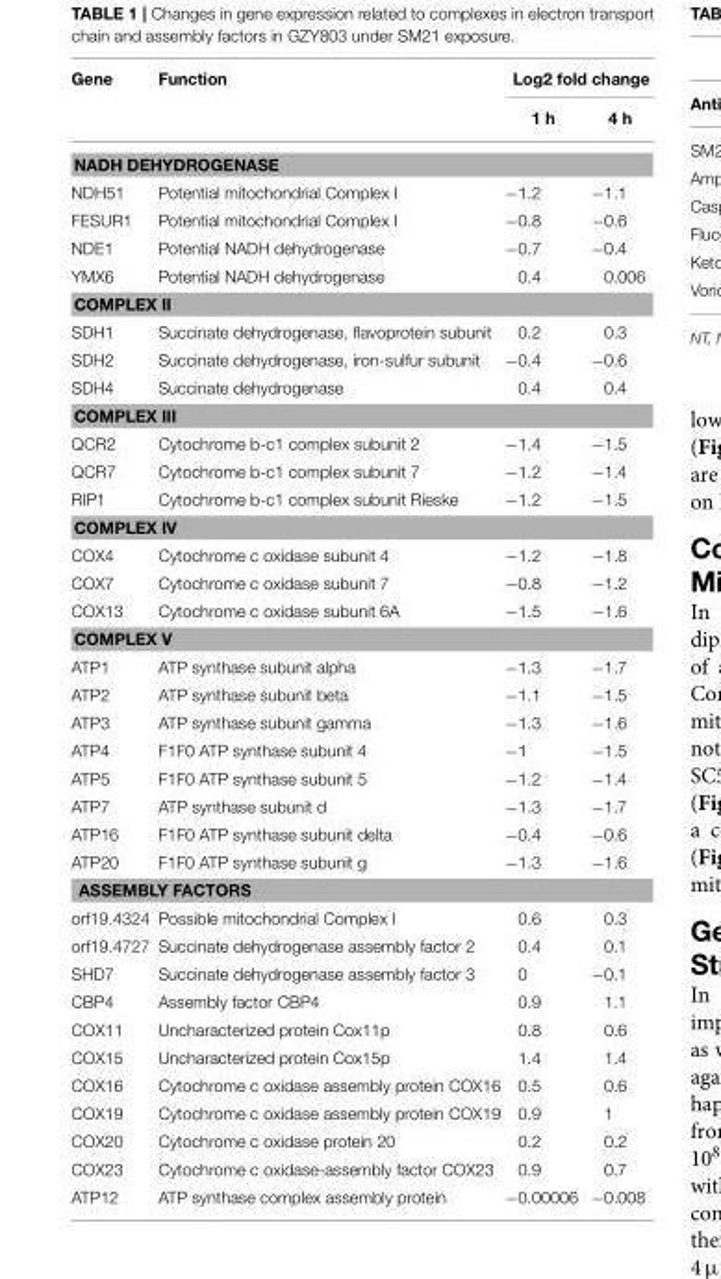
<table><thead><tr><td rowspan="2">Gene</td><td rowspan="2">Function</td><td colspan="2">Log2 fold change</td></tr><tr><td>1 h</td><td>4 h</td></tr></thead><tbody><tr><td colspan="4">NADH DEHYDROGENASE</td></tr><tr><td>NDH51</td><td>Potential mitochondrial Complex I</td><td>−1.2</td><td>−1.1</td></tr><tr><td>FESUR1</td><td>Potential mitochondrial Complex I</td><td>−0.8</td><td>−0.6</td></tr><tr><td>NDE1</td><td>Potential NADH dehydrogenase</td><td>−0.7</td><td>−0.4</td></tr><tr><td>YMX6</td><td>Potential NADH dehydrogenase</td><td>0.4</td><td>0.006</td></tr><tr><td colspan="4">COMPLEX II</td></tr><tr><td>SDH1</td><td>Succinate dehydrogenase, flavoprotein subunit</td><td>0.2</td><td>0.3</td></tr><tr><td>SDH2</td><td>Succinate dehydrogenase, iron-sulfur subunit</td><td>−0.4</td><td>−0.6</td></tr><tr><td>SDH4</td><td>Succinate dehydrogenase</td><td>0.4</td><td>0.4</td></tr><tr><td colspan="4">COMPLEX III</td></tr><tr><td>QCR2</td><td>Cytochrome b-c1 complex subunit 2</td><td>−1.4</td><td>−1.5</td></tr><tr><td>QCR7</td><td>Cytochrome b-c1 complex subunit 7</td><td>−1.2</td><td>−1.4</td></tr><tr><td>RIP1</td><td>Cytochrome b-c1 complex subunit Rieske</td><td>−1.2</td><td>−1.5</td></tr><tr><td colspan="4">COMPLEX IV</td></tr><tr><td>COX4</td><td>Cytochrome c oxidase subunit 4</td><td>−1.2</td><td>−1.8</td></tr><tr><td>COX7</td><td>Cytochrome c oxidase subunit 7</td><td>−0.8</td><td>−1.2</td></tr><tr><td>COX13</td><td>Cytochrome c oxidase subunit 6A</td><td>−1.5</td><td>−1.6</td></tr><tr><td colspan="4">COMPLEX V</td></tr><tr><td>ATP1</td><td>ATP synthase subunit alpha</td><td>−1.3</td><td>−1.7</td></tr><tr><td>ATP2</td><td>ATP synthase subunit beta</td><td>−1.1</td><td>−1.5</td></tr><tr><td>ATP3</td><td>ATP synthase subunit gamma</td><td>−1.3</td><td>−1.6</td></tr><tr><td>ATP4</td><td>F1F0 ATP synthase subunit 4</td><td>−1</td><td>−1.5</td></tr><tr><td>ATP5</td><td>F1F0 ATP synthase subunit 5</td><td>−1.2</td><td>−1.4</td></tr><tr><td>ATP7</td><td>ATP synthase subunit d</td><td>−1.3</td><td>−1.7</td></tr><tr><td>ATP16</td><td>F1F0 ATP synthase subunit delta</td><td>−0.4</td><td>−0.6</td></tr><tr><td>ATP20</td><td>F1F0 ATP synthase subunit g</td><td>−1.3</td><td>−1.6</td></tr><tr><td colspan="4">ASSEMBLY FACTORS</td></tr><tr><td>orf19.4324</td><td>Possible mitochondrial Complex I</td><td>0.6</td><td>0.3</td></tr><tr><td>orf19.4727</td><td>Succinate dehydrogenase assembly factor 2</td><td>0.4</td><td>0.1</td></tr><tr><td>SHD7</td><td>Succinate dehydrogenase assembly factor 3</td><td>0</td><td>−0.1</td></tr><tr><td>CBP4</td><td>Assembly factor CBP4</td><td>0.9</td><td>1.1</td></tr><tr><td>COX11</td><td>Uncharacterized protein Cox11p</td><td>0.8</td><td>0.6</td></tr><tr><td>COX15</td><td>Uncharacterized protein Cox15p</td><td>1.4</td><td>1.4</td></tr><tr><td>COX16</td><td>Cytochrome c oxidase assembly protein COX16</td><td>0.5</td><td>0.6</td></tr><tr><td>COX19</td><td>Cytochrome c oxidase assembly protein COX19</td><td>0.9</td><td>1</td></tr><tr><td>COX20</td><td>Cytochrome c oxidase protein 20</td><td>0.2</td><td>0.2</td></tr><tr><td>COX23</td><td>Cytochrome c oxidase-assembly factor COX23</td><td>0.9</td><td>0.7</td></tr><tr><td>ATP12</td><td>ATP synthase complex assembly protein</td><td>−0.00006</td><td>−0.008</td></tr></tbody></table>